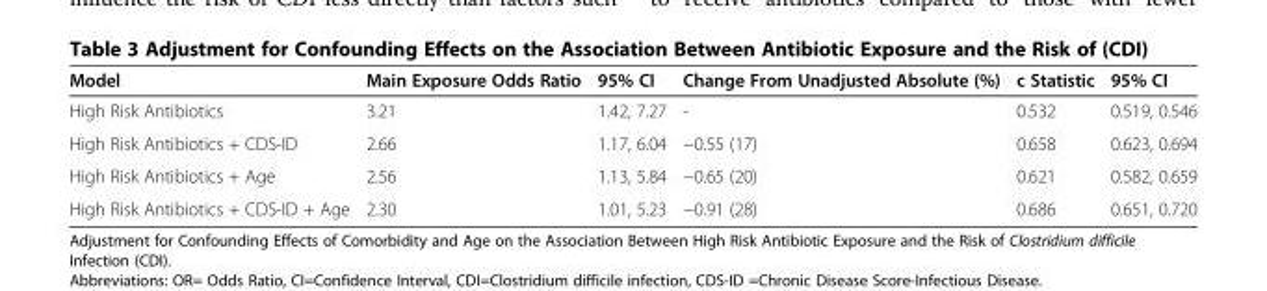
<table><thead><tr><td>Model</td><td>Main Exposure Odds Ratio</td><td>95% CI</td><td>Change From Unadjusted Absolute (%)</td><td>c Statistic</td><td>95% CI</td></tr></thead><tbody><tr><td>High Risk Antibiotics</td><td>3.21</td><td>1.42, 7.27</td><td>-</td><td>0.532</td><td>0.519, 0.546</td></tr><tr><td>High Risk Antibiotics + CDS-ID</td><td>2.66</td><td>1.17, 6.04</td><td>−0.55 (17)</td><td>0.658</td><td>0.623, 0.694</td></tr><tr><td>High Risk Antibiotics + Age</td><td>2.56</td><td>1.13, 5.84</td><td>−0.65 (20)</td><td>0.621</td><td>0.582, 0.659</td></tr><tr><td>High Risk Antibiotics + CDS-ID + Age</td><td>2.30</td><td>1.01, 5.23</td><td>−0.91 (28)</td><td>0.686</td><td>0.651, 0.720</td></tr></tbody></table>